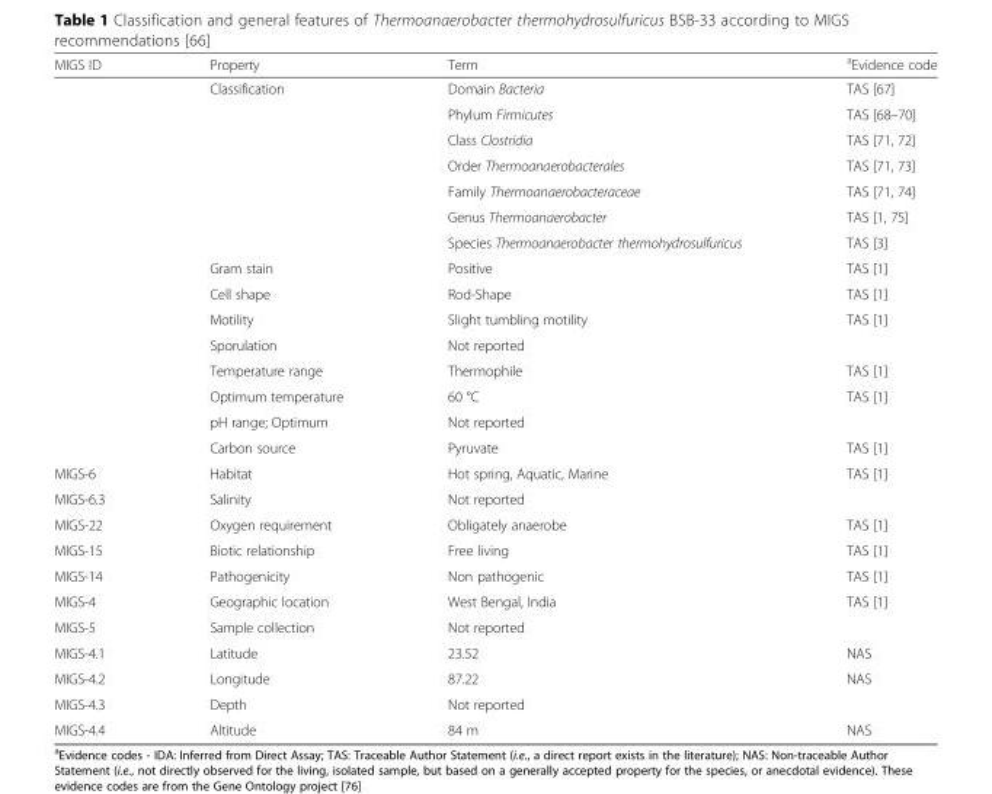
<table><thead><tr><td>MIGS ID</td><td>Property</td><td>Term</td><td><sup>a</sup>Evidence code</td></tr></thead><tbody><tr><td></td><td>Classification</td><td>Domain Bacteria</td><td>TAS [67]</td></tr><tr><td rowspan="5"></td><td rowspan="5"></td><td>Phylum Firmicutes</td><td>TAS [68–70]</td></tr><tr><td>Class Clostridia</td><td>TAS [71, 72]</td></tr><tr><td>Order Thermoanaerobacterales</td><td>TAS [71, 73]</td></tr><tr><td>Family Thermoanaerobacteraceae</td><td>TAS [71, 74]</td></tr><tr><td>Genus Thermoanaerobacter</td><td>TAS [1, 75]</td></tr><tr><td></td><td></td><td>Species Thermoanaerobacter thermohydrosulfuricus</td><td>TAS [3]</td></tr><tr><td></td><td>Gram stain</td><td>Positive</td><td>TAS [1]</td></tr><tr><td></td><td>Cell shape</td><td>Rod-Shape</td><td>TAS [1]</td></tr><tr><td></td><td>Motility</td><td>Slight tumbling motility</td><td>TAS [1]</td></tr><tr><td></td><td>Sporulation</td><td>Not reported</td><td></td></tr><tr><td></td><td>Temperature range</td><td>Thermophile</td><td>TAS [1]</td></tr><tr><td></td><td>Optimum temperature</td><td>60 °C</td><td>TAS [1]</td></tr><tr><td></td><td>pH range; Optimum</td><td>Not reported</td><td></td></tr><tr><td></td><td>Carbon source</td><td>Pyruvate</td><td>TAS [1]</td></tr><tr><td>MIGS-6</td><td>Habitat</td><td>Hot spring, Aquatic, Marine</td><td>TAS [1]</td></tr><tr><td>MIGS-6.3</td><td>Salinity</td><td>Not reported</td><td></td></tr><tr><td>MIGS-22</td><td>Oxygen requirement</td><td>Obligately anaerobe</td><td>TAS [1]</td></tr><tr><td>MIGS-15</td><td>Biotic relationship</td><td>Free living</td><td>TAS [1]</td></tr><tr><td>MIGS-14</td><td>Pathogenicity</td><td>Non pathogenic</td><td>TAS [1]</td></tr><tr><td>MIGS-4</td><td>Geographic location</td><td>West Bengal, India</td><td>TAS [1]</td></tr><tr><td>MIGS-5</td><td>Sample collection</td><td>Not reported</td><td></td></tr><tr><td>MIGS-4.1</td><td>Latitude</td><td>23.52</td><td>NAS</td></tr><tr><td>MIGS-4.2</td><td>Longitude</td><td>87.22</td><td>NAS</td></tr><tr><td>MIGS-4.3</td><td>Depth</td><td>Not reported</td><td></td></tr><tr><td>MIGS-4.4</td><td>Altitude</td><td>84 m</td><td>NAS</td></tr></tbody></table>